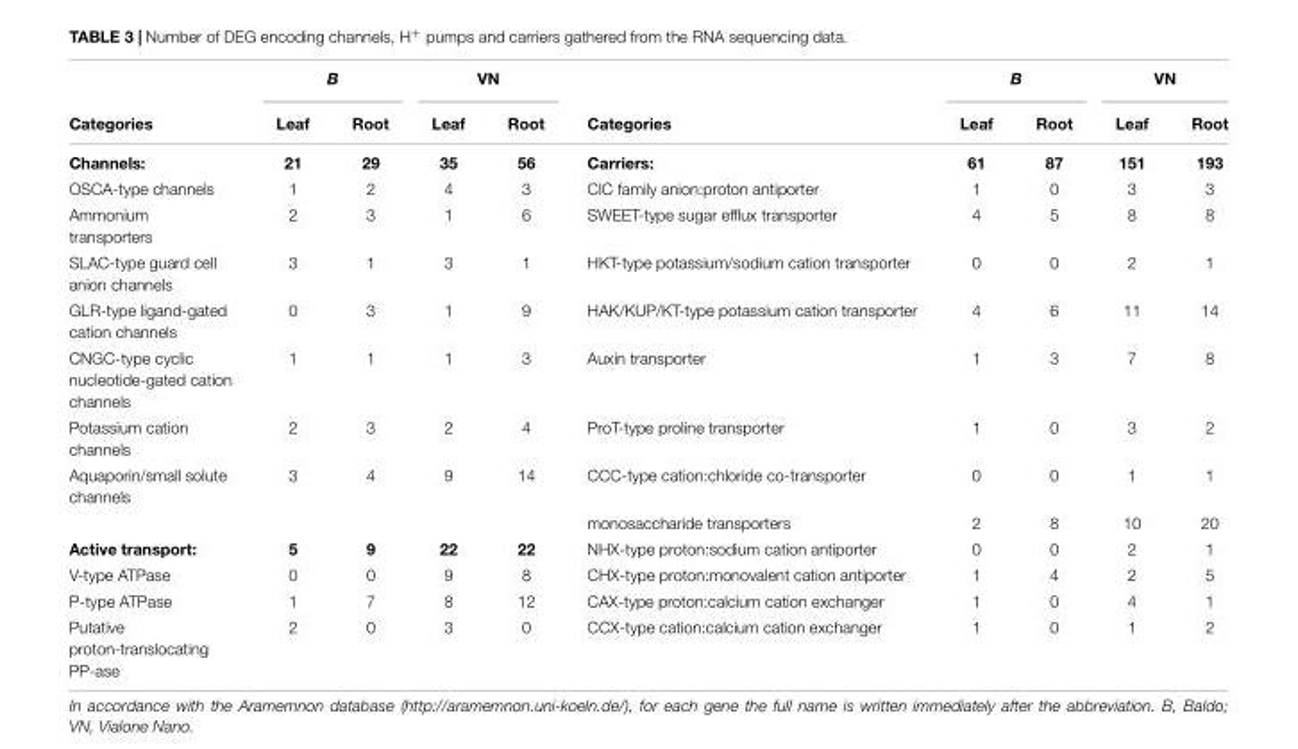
<table><thead><tr><td rowspan="2">Categories</td><td colspan="2">B</td><td colspan="2">VN</td><td rowspan="2">Categories</td><td colspan="2">B</td><td colspan="2">VN</td></tr><tr><td>Leaf</td><td>Root</td><td>Leaf</td><td>Root</td><td>Leaf</td><td>Root</td><td>Leaf</td><td>Root</td></tr></thead><tbody><tr><td>Channels:</td><td>21</td><td>29</td><td>35</td><td>56</td><td>Carriers:</td><td>61</td><td>87</td><td>151</td><td>193</td></tr><tr><td>OSCA-type channels</td><td>1</td><td>2</td><td>4</td><td>3</td><td>ClC family anion:proton antiporter</td><td>1</td><td>0</td><td>3</td><td>3</td></tr><tr><td>Ammonium transporters</td><td>2</td><td>3</td><td>1</td><td>6</td><td>SWEET-type sugar efflux transporter</td><td>4</td><td>5</td><td>8</td><td>8</td></tr><tr><td>SLAC-type guard cell anion channels</td><td>3</td><td>1</td><td>3</td><td>1</td><td>HKT-type potassium/sodium cation transporter</td><td>0</td><td>0</td><td>2</td><td>1</td></tr><tr><td>GLR-type ligand-gated cation channels</td><td>0</td><td>3</td><td>1</td><td>9</td><td>HAK/KUP/KT-type potassium cation transporter</td><td>4</td><td>6</td><td>11</td><td>14</td></tr><tr><td>CNGC-type cyclic nucleotide-gated cation channels</td><td>1</td><td>1</td><td>1</td><td>3</td><td>Auxin transporter</td><td>1</td><td>3</td><td>7</td><td>8</td></tr><tr><td>Potassium cation channels</td><td>2</td><td>3</td><td>2</td><td>4</td><td>ProT-type proline transporter</td><td>1</td><td>0</td><td>3</td><td>2</td></tr><tr><td rowspan="2">Aquaporin/small solute channels</td><td>3</td><td>4</td><td>9</td><td>14</td><td>CCC-type cation:chloride co-transporter</td><td>0</td><td>0</td><td>1</td><td>1</td></tr><tr><td></td><td></td><td></td><td></td><td>monosaccharide transporters</td><td>2</td><td>8</td><td>10</td><td>20</td></tr><tr><td>Active transport:</td><td>5</td><td>9</td><td>22</td><td>22</td><td>NHX-type proton:sodium cation antiporter</td><td>0</td><td>0</td><td>2</td><td>1</td></tr><tr><td>V-type ATPase</td><td>0</td><td>0</td><td>9</td><td>8</td><td>CHX-type proton:monovalent cation antiporter</td><td>1</td><td>4</td><td>2</td><td>5</td></tr><tr><td>P-type ATPase</td><td>1</td><td>7</td><td>8</td><td>12</td><td>CAX-type proton:calcium cation exchanger</td><td>1</td><td>0</td><td>4</td><td>1</td></tr><tr><td>Putative proton-translocating PP-ase</td><td>2</td><td>0</td><td>3</td><td>0</td><td>CCX-type cation:calcium cation exchanger</td><td>1</td><td>0</td><td>1</td><td>2</td></tr></tbody></table>